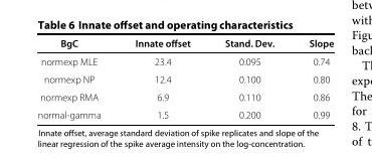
<table><thead><tr><td>BgC</td><td>Innate offset</td><td>Stand. Dev.</td><td>Slope</td></tr></thead><tbody><tr><td>normexp MLE</td><td>23.4</td><td>0.095</td><td>0.74</td></tr><tr><td>normexp NP</td><td>12.4</td><td>0.100</td><td>0.80</td></tr><tr><td>normexp RMA</td><td>6.9</td><td>0.110</td><td>0.86</td></tr><tr><td>normal-gamma</td><td>1.5</td><td>0.200</td><td>0.99</td></tr></tbody></table>